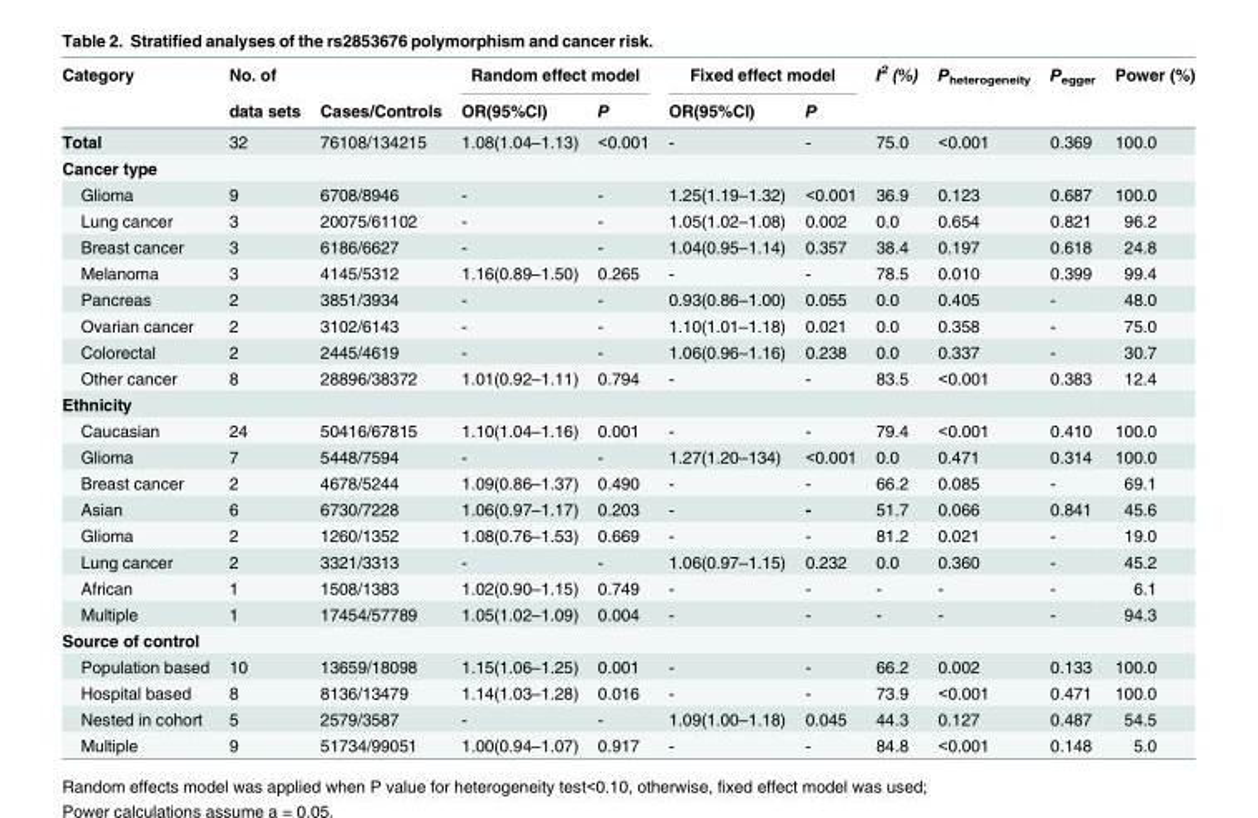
<table><thead><tr><td rowspan="2">Category</td><td rowspan="2">No. of data sets</td><td rowspan="2">Cases/Controls</td><td colspan="2">Random effect model</td><td colspan="2">Fixed effect model</td><td rowspan="2">I<sup>2</sup> (%)</td><td rowspan="2">P<sub>heterogeneity</sub></td><td rowspan="2">P<sub>egger</sub></td><td rowspan="2">Power (%)</td></tr><tr><td>OR(95%CI)</td><td>P</td><td>OR(95%CI)</td><td>P</td></tr></thead><tbody><tr><td>Total</td><td>32</td><td>76108/134215</td><td>1.08(1.04–1.13)</td><td>&lt;0.001</td><td>-</td><td>-</td><td>75.0</td><td>&lt;0.001</td><td>0.369</td><td>100.0</td></tr><tr><td colspan="11">Cancer type</td></tr><tr><td>Glioma</td><td>9</td><td>6708/8946</td><td>-</td><td>-</td><td>1.25(1.19–1.32)</td><td>&lt;0.001</td><td>36.9</td><td>0.123</td><td>0.687</td><td>100.0</td></tr><tr><td>Lung cancer</td><td>3</td><td>20075/61102</td><td>-</td><td>-</td><td>1.05(1.02–1.08)</td><td>0.002</td><td>0.0</td><td>0.654</td><td>0.821</td><td>96.2</td></tr><tr><td>Breast cancer</td><td>3</td><td>6186/6627</td><td>-</td><td>-</td><td>1.04(0.95–1.14)</td><td>0.357</td><td>38.4</td><td>0.197</td><td>0.618</td><td>24.8</td></tr><tr><td>Melanoma</td><td>3</td><td>4145/5312</td><td>1.16(0.89–1.50)</td><td>0.265</td><td>-</td><td>-</td><td>78.5</td><td>0.010</td><td>0.399</td><td>99.4</td></tr><tr><td>Pancreas</td><td>2</td><td>3851/3934</td><td>-</td><td>-</td><td>0.93(0.86–1.00)</td><td>0.055</td><td>0.0</td><td>0.405</td><td>-</td><td>48.0</td></tr><tr><td>Ovarian cancer</td><td>2</td><td>3102/6143</td><td>-</td><td>-</td><td>1.10(1.01–1.18)</td><td>0.021</td><td>0.0</td><td>0.358</td><td>-</td><td>75.0</td></tr><tr><td>Colorectal</td><td>2</td><td>2445/4619</td><td>-</td><td>-</td><td>1.06(0.96–1.16)</td><td>0.238</td><td>0.0</td><td>0.337</td><td>-</td><td>30.7</td></tr><tr><td>Other cancer</td><td>8</td><td>28896/38372</td><td>1.01(0.92–1.11)</td><td>0.794</td><td>-</td><td>-</td><td>83.5</td><td>&lt;0.001</td><td>0.383</td><td>12.4</td></tr><tr><td colspan="11">Ethnicity</td></tr><tr><td>Caucasian</td><td>24</td><td>50416/67815</td><td>1.10(1.04–1.16)</td><td>0.001</td><td>-</td><td>-</td><td>79.4</td><td>&lt;0.001</td><td>0.410</td><td>100.0</td></tr><tr><td>Glioma</td><td>7</td><td>5448/7594</td><td>-</td><td>-</td><td>1.27(1.20–134)</td><td>&lt;0.001</td><td>0.0</td><td>0.471</td><td>0.314</td><td>100.0</td></tr><tr><td>Breast cancer</td><td>2</td><td>4678/5244</td><td>1.09(0.86–1.37)</td><td>0.490</td><td>-</td><td>-</td><td>66.2</td><td>0.085</td><td>-</td><td>69.1</td></tr><tr><td>Asian</td><td>6</td><td>6730/7228</td><td>1.06(0.97–1.17)</td><td>0.203</td><td>-</td><td>-</td><td>51.7</td><td>0.066</td><td>0.841</td><td>45.6</td></tr><tr><td>Glioma</td><td>2</td><td>1260/1352</td><td>1.08(0.76–1.53)</td><td>0.669</td><td>-</td><td>-</td><td>81.2</td><td>0.021</td><td>-</td><td>19.0</td></tr><tr><td>Lung cancer</td><td>2</td><td>3321/3313</td><td>-</td><td>-</td><td>1.06(0.97–1.15)</td><td>0.232</td><td>0.0</td><td>0.360</td><td>-</td><td>45.2</td></tr><tr><td>African</td><td>1</td><td>1508/1383</td><td>1.02(0.90–1.15)</td><td>0.749</td><td>-</td><td>-</td><td>-</td><td>-</td><td>-</td><td>6.1</td></tr><tr><td>Multiple</td><td>1</td><td>17454/57789</td><td>1.05(1.02–1.09)</td><td>0.004</td><td>-</td><td>-</td><td>-</td><td>-</td><td>-</td><td>94.3</td></tr><tr><td colspan="11">Source of control</td></tr><tr><td>Population based</td><td>10</td><td>13659/18098</td><td>1.15(1.06–1.25)</td><td>0.001</td><td>-</td><td>-</td><td>66.2</td><td>0.002</td><td>0.133</td><td>100.0</td></tr><tr><td>Hospital based</td><td>8</td><td>8136/13479</td><td>1.14(1.03–1.28)</td><td>0.016</td><td>-</td><td>-</td><td>73.9</td><td>&lt;0.001</td><td>0.471</td><td>100.0</td></tr><tr><td>Nested in cohort</td><td>5</td><td>2579/3587</td><td>-</td><td>-</td><td>1.09(1.00–1.18)</td><td>0.045</td><td>44.3</td><td>0.127</td><td>0.487</td><td>54.5</td></tr><tr><td>Multiple</td><td>9</td><td>51734/99051</td><td>1.00(0.94–1.07)</td><td>0.917</td><td>-</td><td>-</td><td>84.8</td><td>&lt;0.001</td><td>0.148</td><td>5.0</td></tr></tbody></table>